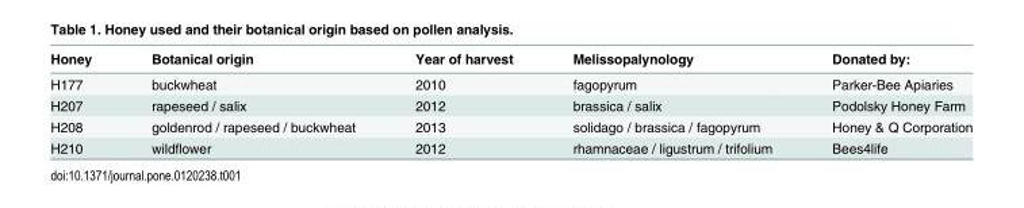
<table><thead><tr><td>Honey</td><td>Botanical origin</td><td>Year of harvest</td><td>Melissopalynology</td><td>Donated by:</td></tr></thead><tbody><tr><td>H177</td><td>buckwheat</td><td>2010</td><td>fagopyrum</td><td>Parker-Bee Apiaries</td></tr><tr><td>H207</td><td>rapeseed / salix</td><td>2012</td><td>brassica / salix</td><td>Podolsky Honey Farm</td></tr><tr><td>H208</td><td>goldenrod / rapeseed / buckwheat</td><td>2013</td><td>solidago / brassica / fagopyrum</td><td>Honey &amp; Q Corporation</td></tr><tr><td>H210</td><td>wildflower</td><td>2012</td><td>rhamnaceae / ligustrum / trifolium</td><td>Bees4life</td></tr></tbody></table>